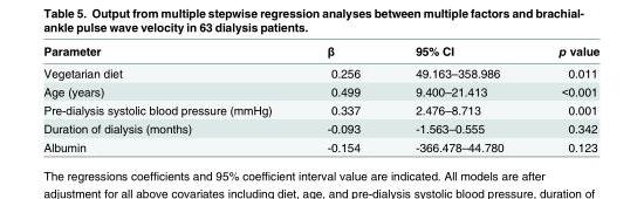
<table><thead><tr><td>Parameter</td><td>β</td><td>95% CI</td><td>p value</td></tr></thead><tbody><tr><td>Vegetarian diet</td><td>0.256</td><td>49.163–358.986</td><td>0.011</td></tr><tr><td>Age (years)</td><td>0.499</td><td>9.400–21.413</td><td>&lt;0.001</td></tr><tr><td>Pre-dialysis systolic blood pressure (mmHg)</td><td>0.337</td><td>2.476–8.713</td><td>0.001</td></tr><tr><td>Duration of dialysis (months)</td><td>-0.093</td><td>-1.563–0.555</td><td>0.342</td></tr><tr><td>Albumin</td><td>-0.154</td><td>-366.478–44.780</td><td>0.123</td></tr></tbody></table>